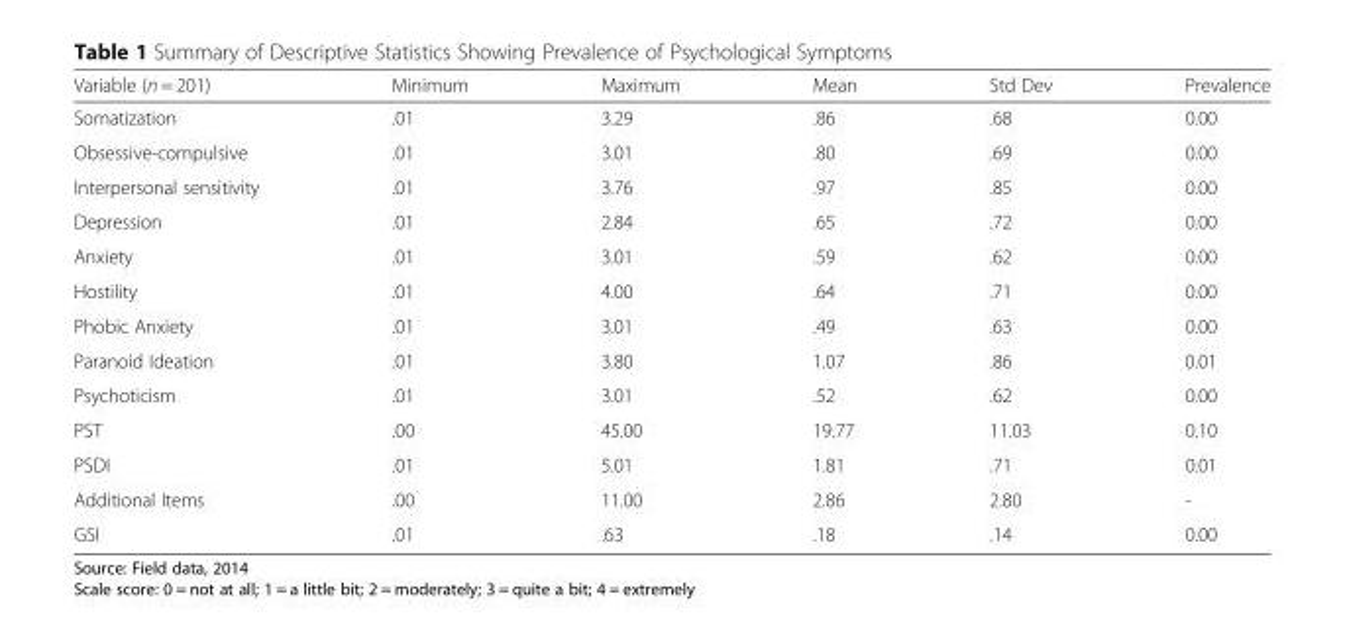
<table><thead><tr><td>Variable (n = 201)</td><td>Minimum</td><td>Maximum</td><td>Mean</td><td>Std Dev</td><td>Prevalence</td></tr></thead><tbody><tr><td>Somatization</td><td>.01</td><td>3.29</td><td>.86</td><td>.68</td><td>0.00</td></tr><tr><td>Obsessive-compulsive</td><td>.01</td><td>3.01</td><td>.80</td><td>.69</td><td>0.00</td></tr><tr><td>Interpersonal sensitivity</td><td>.01</td><td>3.76</td><td>.97</td><td>.85</td><td>0.00</td></tr><tr><td>Depression</td><td>.01</td><td>2.84</td><td>.65</td><td>.72</td><td>0.00</td></tr><tr><td>Anxiety</td><td>.01</td><td>3.01</td><td>.59</td><td>.62</td><td>0.00</td></tr><tr><td>Hostility</td><td>.01</td><td>4.00</td><td>.64</td><td>.71</td><td>0.00</td></tr><tr><td>Phobic Anxiety</td><td>.01</td><td>3.01</td><td>.49</td><td>.63</td><td>0.00</td></tr><tr><td>Paranoid Ideation</td><td>.01</td><td>3.80</td><td>1.07</td><td>.86</td><td>0.01</td></tr><tr><td>Psychoticism</td><td>.01</td><td>3.01</td><td>.52</td><td>.62</td><td>0.00</td></tr><tr><td>PST</td><td>.00</td><td>45.00</td><td>19.77</td><td>11.03</td><td>0.10</td></tr><tr><td>PSDI</td><td>.01</td><td>5.01</td><td>1.81</td><td>.71</td><td>0.01</td></tr><tr><td>Additional Items</td><td>.00</td><td>11.00</td><td>2.86</td><td>2.80</td><td>-</td></tr><tr><td>GSI</td><td>.01</td><td>.63</td><td>.18</td><td>.14</td><td>0.00</td></tr></tbody></table>